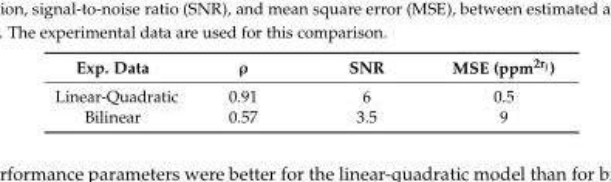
<table><thead><tr><td>Exp. Data</td><td>ρ</td><td>SNR</td><td>MSE (ppm<sup>2r<sub>j</sub></sup>)</td></tr></thead><tbody><tr><td>Linear-Quadratic</td><td>0.91</td><td>6</td><td>0.5</td></tr><tr><td>Bilinear</td><td>0.57</td><td>3.5</td><td>9</td></tr></tbody></table>